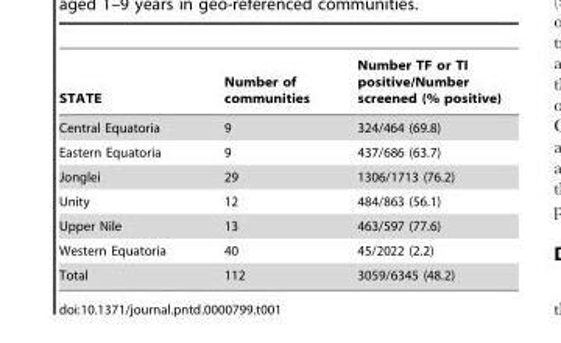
<table><thead><tr><td>STATE</td><td>Number of communities</td><td>Number TF or TI positive/Number screened (% positive)</td></tr></thead><tbody><tr><td>Central Equatoria</td><td>9</td><td>324/464 (69.8)</td></tr><tr><td>Eastern Equatoria</td><td>9</td><td>437/686 (63.7)</td></tr><tr><td>Jonglei</td><td>29</td><td>1306/1713 (76.2)</td></tr><tr><td>Unity</td><td>12</td><td>484/863 (56.1)</td></tr><tr><td>Upper Nile</td><td>13</td><td>463/597 (77.6)</td></tr><tr><td>Western Equatoria</td><td>40</td><td>45/2022 (2.2)</td></tr><tr><td>Total</td><td>112</td><td>3059/6345 (48.2)</td></tr></tbody></table>